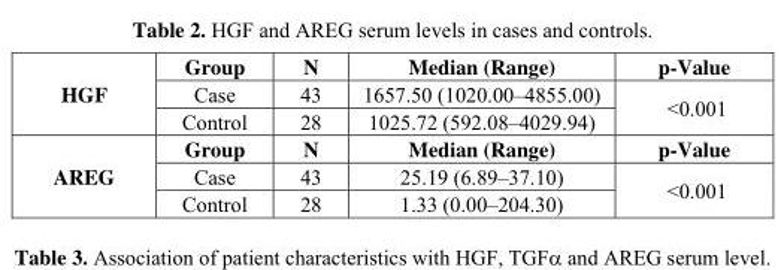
<table><tbody><tr><td rowspan="3">HGF</td><td>Group</td><td>N</td><td>Median (Range)</td><td>p-Value</td></tr><tr><td>Case</td><td>43</td><td>1657.50 (1020.00–4855.00)</td><td rowspan="2">&lt;0.001</td></tr><tr><td>Control</td><td>28</td><td>1025.72 (592.08–4029.94)</td></tr><tr><td rowspan="3">AREG</td><td>Group</td><td>N</td><td>Median (Range)</td><td>p-Value</td></tr><tr><td>Case</td><td>43</td><td>25.19 (6.89–37.10)</td><td rowspan="2">&lt;0.001</td></tr><tr><td>Control</td><td>28</td><td>1.33 (0.00–204.30)</td></tr></tbody></table>